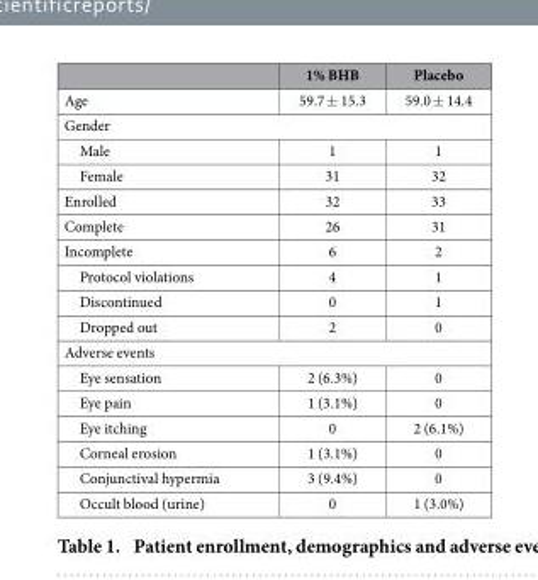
<table><thead><tr><td></td><td>1% BHB</td><td>Placebo</td></tr></thead><tbody><tr><td>Age</td><td>59.7 ± 15.3</td><td>59.0 ± 14.4</td></tr><tr><td colspan="3">Gender</td></tr><tr><td>Male</td><td>1</td><td>1</td></tr><tr><td>Female</td><td>31</td><td>32</td></tr><tr><td>Enrolled</td><td>32</td><td>33</td></tr><tr><td>Complete</td><td>26</td><td>31</td></tr><tr><td>Incomplete</td><td>6</td><td>2</td></tr><tr><td>Protocol violations</td><td>4</td><td>1</td></tr><tr><td>Discontinued</td><td>0</td><td>1</td></tr><tr><td>Dropped out</td><td>2</td><td>0</td></tr><tr><td colspan="3">Adverse events</td></tr><tr><td>Eye sensation</td><td>2 (6.3%)</td><td>0</td></tr><tr><td>Eye pain</td><td>1 (3.1%)</td><td>0</td></tr><tr><td>Eye itching</td><td>0</td><td>2 (6.1%)</td></tr><tr><td>Corneal erosion</td><td>1 (3.1%)</td><td>0</td></tr><tr><td>Conjunctival hypermia</td><td>3 (9.4%)</td><td>0</td></tr><tr><td>Occult blood (urine)</td><td>0</td><td>1 (3.0%)</td></tr></tbody></table>